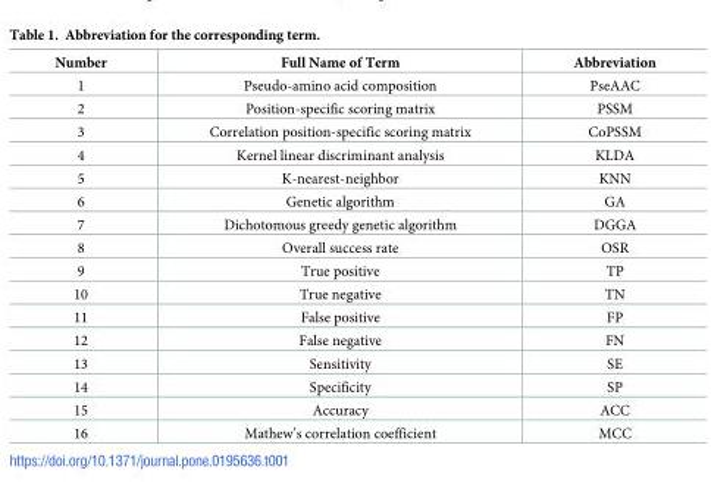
<table><thead><tr><td>Number</td><td>Full Name of Term</td><td>Abbreviation</td></tr></thead><tbody><tr><td>1</td><td>Pseudo-amino acid composition</td><td>PseAAC</td></tr><tr><td>2</td><td>Position-specific scoring matrix</td><td>PSSM</td></tr><tr><td>3</td><td>Correlation position-specific scoring matrix</td><td>CoPSSM</td></tr><tr><td>4</td><td>Kernel linear discriminant analysis</td><td>KLDA</td></tr><tr><td>5</td><td>K-nearest-neighbor</td><td>KNN</td></tr><tr><td>6</td><td>Genetic algorithm</td><td>GA</td></tr><tr><td>7</td><td>Dichotomous greedy genetic algorithm</td><td>DGGA</td></tr><tr><td>8</td><td>Overall success rate</td><td>OSR</td></tr><tr><td>9</td><td>True positive</td><td>TP</td></tr><tr><td>10</td><td>True negative</td><td>TN</td></tr><tr><td>11</td><td>False positive</td><td>FP</td></tr><tr><td>12</td><td>False negative</td><td>FN</td></tr><tr><td>13</td><td>Sensitivity</td><td>SE</td></tr><tr><td>14</td><td>Specificity</td><td>SP</td></tr><tr><td>15</td><td>Accuracy</td><td>ACC</td></tr><tr><td>16</td><td>Mathew’s correlation coefficient</td><td>MCC</td></tr></tbody></table>